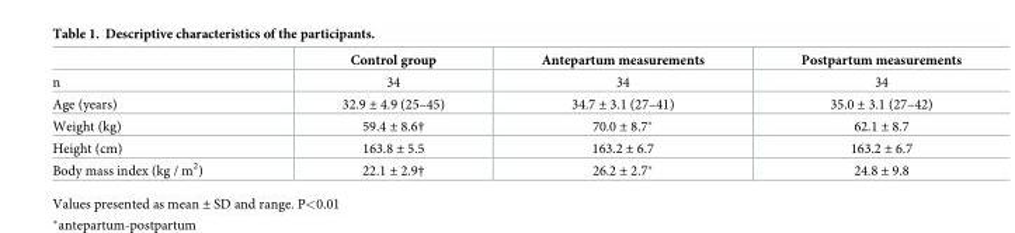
<table><thead><tr><td></td><td>Control group</td><td>Antepartum measurements</td><td>Postpartum measurements</td></tr></thead><tbody><tr><td>n</td><td>34</td><td>34</td><td>34</td></tr><tr><td>Age (years)</td><td>32.9 ± 4.9 (25–45)</td><td>34.7 ± 3.1 (27–41)</td><td>35.0 ± 3.1 (27–42)</td></tr><tr><td>Weight (kg)</td><td>59.4 ± 8.6†</td><td>70.0 ± 8.7*</td><td>62.1 ± 8.7</td></tr><tr><td>Height (cm)</td><td>163.8 ± 5.5</td><td>163.2 ± 6.7</td><td>163.2 ± 6.7</td></tr><tr><td>Body mass index (kg / m<sup>2</sup>)</td><td>22.1 ± 2.9†</td><td>26.2 ± 2.7*</td><td>24.8 ± 9.8</td></tr></tbody></table>